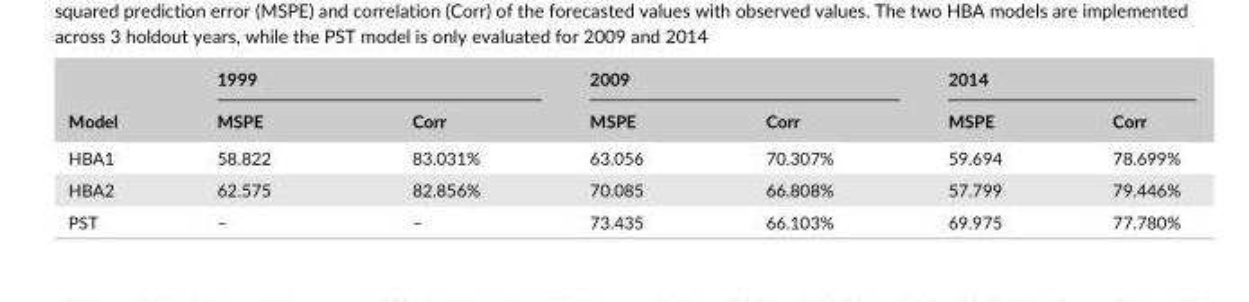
<table><thead><tr><td rowspan="2">Model</td><td colspan="2">1999</td><td colspan="2">2009</td><td colspan="2">2014</td></tr><tr><td>MSPE</td><td>Corr</td><td>MSPE</td><td>Corr</td><td>MSPE</td><td>Corr</td></tr></thead><tbody><tr><td>HBA1</td><td>58.822</td><td>83.031%</td><td>63.056</td><td>70.307%</td><td>59.694</td><td>78.699%</td></tr><tr><td>HBA2</td><td>62.575</td><td>82.856%</td><td>70.085</td><td>66.808%</td><td>57.799</td><td>79.446%</td></tr><tr><td>PST</td><td>–</td><td>–</td><td>73.435</td><td>66.103%</td><td>69.975</td><td>77.780%</td></tr></tbody></table>